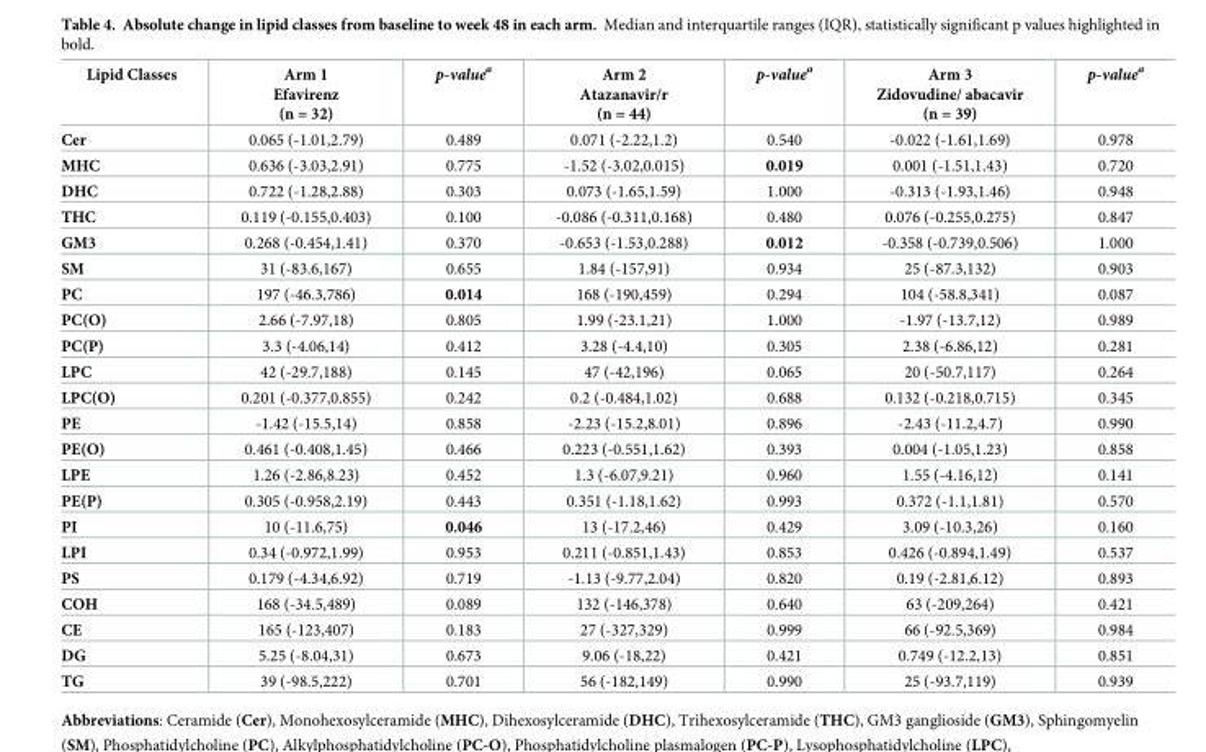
<table><thead><tr><td>Lipid Classes</td><td>Arm 1 Efavirenz (n = 32)</td><td>p-value<sup>a</sup></td><td>Arm 2 Atazanavir/r (n = 44)</td><td>p-value<sup>a</sup></td><td>Arm 3 Zidovudine/ abacavir (n = 39)</td><td>p-value<sup>a</sup></td></tr></thead><tbody><tr><td>Cer</td><td>0.065 (-1.01,2.79)</td><td>0.489</td><td>0.071 (-2.22,1.2)</td><td>0.540</td><td>-0.022 (-1.61,1.69)</td><td>0.978</td></tr><tr><td>MHC</td><td>0.636 (-3.03,2.91)</td><td>0.775</td><td>-1.52 (-3.02,0.015)</td><td>0.019</td><td>0.001 (-1.51,1.43)</td><td>0.720</td></tr><tr><td>DHC</td><td>0.722 (-1.28,2.88)</td><td>0.303</td><td>0.073 (-1.65,1.59)</td><td>1.000</td><td>-0.313 (-1.93,1.46)</td><td>0.948</td></tr><tr><td>THC</td><td>0.119 (-0.155,0.403)</td><td>0.100</td><td>-0.086 (-0.311,0.168)</td><td>0.480</td><td>0.076 (-0.255,0.275)</td><td>0.847</td></tr><tr><td>GM3</td><td>0.268 (-0.454,1.41)</td><td>0.370</td><td>-0.653 (-1.53,0.288)</td><td>0.012</td><td>-0.358 (-0.739,0.506)</td><td>1.000</td></tr><tr><td>SM</td><td>31 (-83.6,167)</td><td>0.655</td><td>1.84 (-157,91)</td><td>0.934</td><td>25 (-87.3,132)</td><td>0.903</td></tr><tr><td>PC</td><td>197 (-46.3,786)</td><td>0.014</td><td>168 (-190,459)</td><td>0.294</td><td>104 (-58.8,341)</td><td>0.087</td></tr><tr><td>PC(O)</td><td>2.66 (-7.97,18)</td><td>0.805</td><td>1.99 (-23.1,21)</td><td>1.000</td><td>-1.97 (-13.7,12)</td><td>0.989</td></tr><tr><td>PC(P)</td><td>3.3 (-4.06,14)</td><td>0.412</td><td>3.28 (-4.4,10)</td><td>0.305</td><td>2.38 (-6.86,12)</td><td>0.281</td></tr><tr><td>LPC</td><td>42 (-29.7,188)</td><td>0.145</td><td>47 (-42,196)</td><td>0.065</td><td>20 (-50.7,117)</td><td>0.264</td></tr><tr><td>LPC(O)</td><td>0.201 (-0.377,0.855)</td><td>0.242</td><td>0.2 (-0.484,1.02)</td><td>0.688</td><td>0.132 (-0.218,0.715)</td><td>0.345</td></tr><tr><td>PE</td><td>-1.42 (-15.5,14)</td><td>0.858</td><td>-2.23 (-15.2,8.01)</td><td>0.896</td><td>-2.43 (-11.2,4.7)</td><td>0.990</td></tr><tr><td>PE(O)</td><td>0.461 (-0.408,1.45)</td><td>0.466</td><td>0.223 (-0.551,1.62)</td><td>0.393</td><td>0.004 (-1.05,1.23)</td><td>0.858</td></tr><tr><td>LPE</td><td>1.26 (-2.86,8.23)</td><td>0.452</td><td>1.3 (-6.07,9.21)</td><td>0.960</td><td>1.55 (-4.16,12)</td><td>0.141</td></tr><tr><td>PE(P)</td><td>0.305 (-0.958,2.19)</td><td>0.443</td><td>0.351 (-1.18,1.62)</td><td>0.993</td><td>0.372 (-1.1,1.81)</td><td>0.570</td></tr><tr><td>PI</td><td>10 (-11.6,75)</td><td>0.046</td><td>13 (-17.2,46)</td><td>0.429</td><td>3.09 (-10.3,26)</td><td>0.160</td></tr><tr><td>LPI</td><td>0.34 (-0.972,1.99)</td><td>0.953</td><td>0.211 (-0.851,1.43)</td><td>0.853</td><td>0.426 (-0.894,1.49)</td><td>0.537</td></tr><tr><td>PS</td><td>0.179 (-4.34,6.92)</td><td>0.719</td><td>-1.13 (-9.77,2.04)</td><td>0.820</td><td>0.19 (-2.81,6.12)</td><td>0.893</td></tr><tr><td>COH</td><td>168 (-34.5,489)</td><td>0.089</td><td>132 (-146,378)</td><td>0.640</td><td>63 (-209,264)</td><td>0.421</td></tr><tr><td>CE</td><td>165 (-123,407)</td><td>0.183</td><td>27 (-327,329)</td><td>0.999</td><td>66 (-92.5,369)</td><td>0.984</td></tr><tr><td>DG</td><td>5.25 (-8.04,31)</td><td>0.673</td><td>9.06 (-18,22)</td><td>0.421</td><td>0.749 (-12.2,13)</td><td>0.851</td></tr><tr><td>TG</td><td>39 (-98.5,222)</td><td>0.701</td><td>56 (-182,149)</td><td>0.990</td><td>25 (-93.7,119)</td><td>0.939</td></tr></tbody></table>